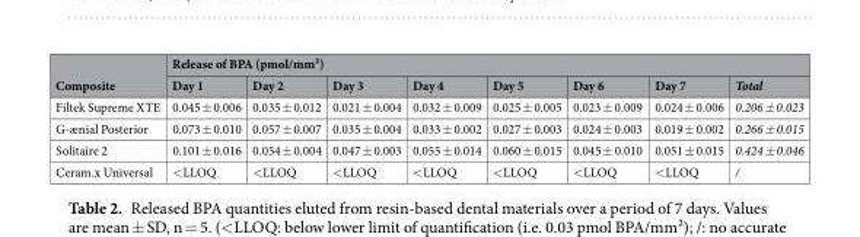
<table><thead><tr><td rowspan="2">Composite</td><td colspan="8">Release of BPA (pmol/mm²)</td></tr><tr><td>Day 1</td><td>Day 2</td><td>Day 3</td><td>Day 4</td><td>Day 5</td><td>Day 6</td><td>Day 7</td><td>Total</td></tr></thead><tbody><tr><td>Filtek Supreme XTE</td><td>0.045 ± 0.006</td><td>0.035 ± 0.012</td><td>0.021 ± 0.004</td><td>0.032 ± 0.009</td><td>0.025 ± 0.005</td><td>0.023 ± 0.009</td><td>0.024 ± 0.006</td><td>0.206 ± 0.023</td></tr><tr><td>G-ænial Posterior</td><td>0.073 ± 0.010</td><td>0.057 ± 0.007</td><td>0.035 ± 0.004</td><td>0.033 ± 0.002</td><td>0.027 ± 0.003</td><td>0.024 ± 0.003</td><td>0.019 ± 0.002</td><td>0.266 ± 0.015</td></tr><tr><td>Solitaire 2</td><td>0.101 ± 0.016</td><td>0.054 ± 0.004</td><td>0.047 ± 0.003</td><td>0.055 ± 0.014</td><td>0.060 ± 0.015</td><td>0.045 ± 0.010</td><td>0.051 ± 0.015</td><td>0.424 ± 0.046</td></tr><tr><td>Ceram.x Universal</td><td>&lt;LLOQ</td><td>&lt;LLOQ</td><td>&lt;LLOQ</td><td>&lt;LLOQ</td><td>&lt;LLOQ</td><td>&lt;LLOQ</td><td>&lt;LLOQ</td><td>/</td></tr></tbody></table>